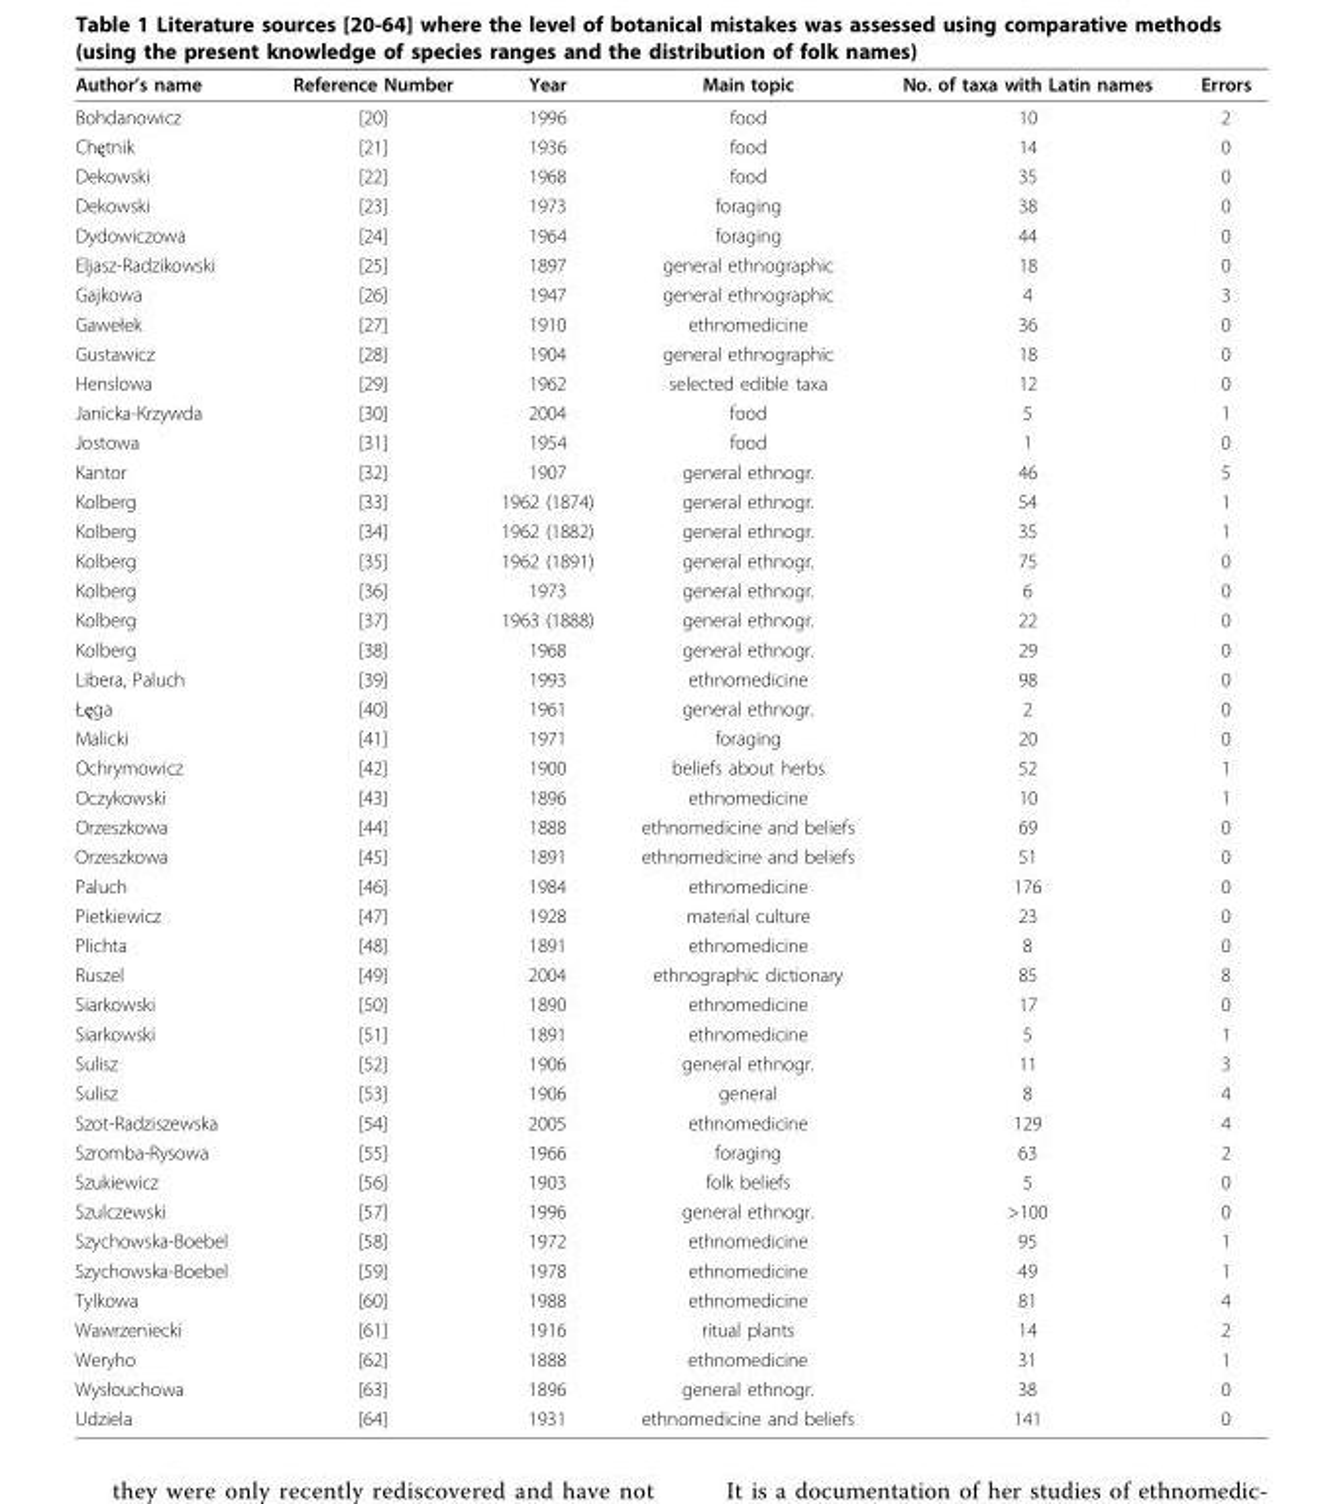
<table><thead><tr><td>Author’s name</td><td>Reference Number</td><td>Year</td><td>Main topic</td><td>No. of taxa with Latin names</td><td>Errors</td></tr></thead><tbody><tr><td>Bohdanowicz</td><td>[20]</td><td>1996</td><td>food</td><td>10</td><td>2</td></tr><tr><td>Chętnik</td><td>[21]</td><td>1936</td><td>food</td><td>14</td><td>0</td></tr><tr><td>Dekowski</td><td>[22]</td><td>1968</td><td>food</td><td>35</td><td>0</td></tr><tr><td>Dekowski</td><td>[23]</td><td>1973</td><td>foraging</td><td>38</td><td>0</td></tr><tr><td>Dydowiczowa</td><td>[24]</td><td>1964</td><td>foraging</td><td>44</td><td>0</td></tr><tr><td>Eljasz-Radzikowski</td><td>[25]</td><td>1897</td><td>general ethnographic</td><td>18</td><td>0</td></tr><tr><td>Gajkowa</td><td>[26]</td><td>1947</td><td>general ethnographic</td><td>4</td><td>3</td></tr><tr><td>Gawełek</td><td>[27]</td><td>1910</td><td>ethnomedicine</td><td>36</td><td>0</td></tr><tr><td>Gustawicz</td><td>[28]</td><td>1904</td><td>general ethnographic</td><td>18</td><td>0</td></tr><tr><td>Henslowa</td><td>[29]</td><td>1962</td><td>selected edible taxa</td><td>12</td><td>0</td></tr><tr><td>Janicka-Krzywda</td><td>[30]</td><td>2004</td><td>food</td><td>5</td><td>1</td></tr><tr><td>Jostowa</td><td>[31]</td><td>1954</td><td>food</td><td>1</td><td>0</td></tr><tr><td>Kantor</td><td>[32]</td><td>1907</td><td>general ethnogr.</td><td>46</td><td>5</td></tr><tr><td>Kolberg</td><td>[33]</td><td>1962 (1874)</td><td>general ethnogr.</td><td>54</td><td>1</td></tr><tr><td>Kolberg</td><td>[34]</td><td>1962 (1882)</td><td>general ethnogr.</td><td>35</td><td>1</td></tr><tr><td>Kolberg</td><td>[35]</td><td>1962 (1891)</td><td>general ethnogr.</td><td>75</td><td>0</td></tr><tr><td>Kolberg</td><td>[36]</td><td>1973</td><td>general ethnogr.</td><td>6</td><td>0</td></tr><tr><td>Kolberg</td><td>[37]</td><td>1963 (1888)</td><td>general ethnogr.</td><td>22</td><td>0</td></tr><tr><td>Kolberg</td><td>[38]</td><td>1968</td><td>general ethnogr.</td><td>29</td><td>0</td></tr><tr><td>Libera, Paluch</td><td>[39]</td><td>1993</td><td>ethnomedicine</td><td>98</td><td>0</td></tr><tr><td>Łęga</td><td>[40]</td><td>1961</td><td>general ethnogr.</td><td>2</td><td>0</td></tr><tr><td>Malicki</td><td>[41]</td><td>1971</td><td>foraging</td><td>20</td><td>0</td></tr><tr><td>Ochrymowicz</td><td>[42]</td><td>1900</td><td>beliefs about herbs</td><td>52</td><td>1</td></tr><tr><td>Oczykowski</td><td>[43]</td><td>1896</td><td>ethnomedicine</td><td>10</td><td>1</td></tr><tr><td>Orzeszkowa</td><td>[44]</td><td>1888</td><td>ethnomedicine and beliefs</td><td>69</td><td>0</td></tr><tr><td>Orzeszkowa</td><td>[45]</td><td>1891</td><td>ethnomedicine and beliefs</td><td>51</td><td>0</td></tr><tr><td>Paluch</td><td>[46]</td><td>1984</td><td>ethnomedicine</td><td>176</td><td>0</td></tr><tr><td>Pietkiewicz</td><td>[47]</td><td>1928</td><td>material culture</td><td>23</td><td>0</td></tr><tr><td>Plichta</td><td>[48]</td><td>1891</td><td>ethnomedicine</td><td>8</td><td>0</td></tr><tr><td>Ruszel</td><td>[49]</td><td>2004</td><td>ethnographic dictionary</td><td>85</td><td>8</td></tr><tr><td>Siarkowski</td><td>[50]</td><td>1890</td><td>ethnomedicine</td><td>17</td><td>0</td></tr><tr><td>Siarkowski</td><td>[51]</td><td>1891</td><td>ethnomedicine</td><td>5</td><td>1</td></tr><tr><td>Sulisz</td><td>[52]</td><td>1906</td><td>general ethnogr.</td><td>11</td><td>3</td></tr><tr><td>Sulisz</td><td>[53]</td><td>1906</td><td>general</td><td>8</td><td>4</td></tr><tr><td>Szot-Radziszewska</td><td>[54]</td><td>2005</td><td>ethnomedicine</td><td>129</td><td>4</td></tr><tr><td>Szromba-Rysowa</td><td>[55]</td><td>1966</td><td>foraging</td><td>63</td><td>2</td></tr><tr><td>Szukiewicz</td><td>[56]</td><td>1903</td><td>folk beliefs</td><td>5</td><td>0</td></tr><tr><td>Szulczewski</td><td>[57]</td><td>1996</td><td>general ethnogr.</td><td>&gt;100</td><td>0</td></tr><tr><td>Szychowska-Boebel</td><td>[58]</td><td>1972</td><td>ethnomedicine</td><td>95</td><td>1</td></tr><tr><td>Szychowska-Boebel</td><td>[59]</td><td>1978</td><td>ethnomedicine</td><td>49</td><td>1</td></tr><tr><td>Tylkowa</td><td>[60]</td><td>1988</td><td>ethnomedicine</td><td>81</td><td>4</td></tr><tr><td>Wawrzeniecki</td><td>[61]</td><td>1916</td><td>ritual plants</td><td>14</td><td>2</td></tr><tr><td>Weryho</td><td>[62]</td><td>1888</td><td>ethnomedicine</td><td>31</td><td>1</td></tr><tr><td>Wysłouchowa</td><td>[63]</td><td>1896</td><td>general ethnogr.</td><td>38</td><td>0</td></tr><tr><td>Udziela</td><td>[64]</td><td>1931</td><td>ethnomedicine and beliefs</td><td>141</td><td>0</td></tr></tbody></table>